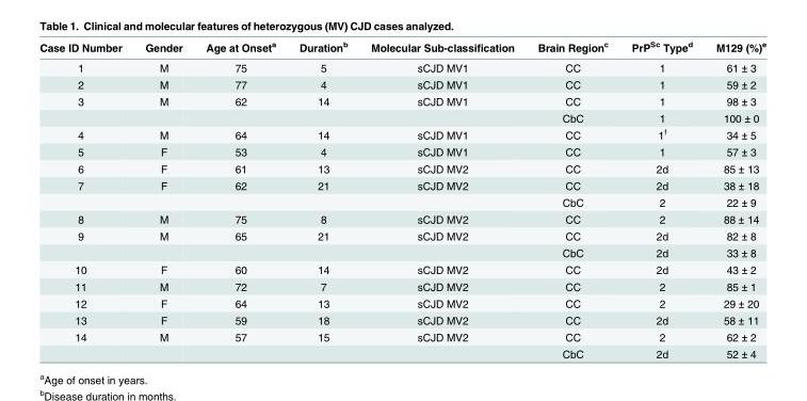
<table><thead><tr><td>Case ID Number</td><td>Gender</td><td>Age at Onset<sup>a</sup></td><td>Duration<sup>b</sup></td><td>Molecular Sub-classification</td><td>Brain Region<sup>c</sup></td><td>PrP<sup>Sc</sup> Type<sup>d</sup></td><td>M129 (%)<sup>e</sup></td></tr></thead><tbody><tr><td>1</td><td>M</td><td>75</td><td>5</td><td>sCJD MV1</td><td>CC</td><td>1</td><td>61 ± 3</td></tr><tr><td>2</td><td>M</td><td>77</td><td>4</td><td>sCJD MV1</td><td>CC</td><td>1</td><td>59 ± 2</td></tr><tr><td rowspan="2">3</td><td>M</td><td>62</td><td>14</td><td>sCJD MV1</td><td>CC</td><td>1</td><td>98 ± 3</td></tr><tr><td></td><td></td><td></td><td></td><td>CbC</td><td>1</td><td>100 ± 0</td></tr><tr><td>4</td><td>M</td><td>64</td><td>14</td><td>sCJD MV1</td><td>CC</td><td>1<sup>f</sup></td><td>34 ± 5</td></tr><tr><td>5</td><td>F</td><td>53</td><td>4</td><td>sCJD MV1</td><td>CC</td><td>1</td><td>57 ± 3</td></tr><tr><td>6</td><td>F</td><td>61</td><td>13</td><td>sCJD MV2</td><td>CC</td><td>2d</td><td>85 ± 13</td></tr><tr><td rowspan="2">7</td><td>F</td><td>62</td><td>21</td><td>sCJD MV2</td><td>CC</td><td>2d</td><td>38 ± 18</td></tr><tr><td></td><td></td><td></td><td></td><td>CbC</td><td>2</td><td>22 ± 9</td></tr><tr><td>8</td><td>M</td><td>75</td><td>8</td><td>sCJD MV2</td><td>CC</td><td>2</td><td>88 ± 14</td></tr><tr><td rowspan="2">9</td><td>M</td><td>65</td><td>21</td><td>sCJD MV2</td><td>CC</td><td>2d</td><td>82 ± 8</td></tr><tr><td></td><td></td><td></td><td></td><td>CbC</td><td>2d</td><td>33 ± 8</td></tr><tr><td>10</td><td>F</td><td>60</td><td>14</td><td>sCJD MV2</td><td>CC</td><td>2d</td><td>43 ± 2</td></tr><tr><td>11</td><td>M</td><td>72</td><td>7</td><td>sCJD MV2</td><td>CC</td><td>2</td><td>85 ± 1</td></tr><tr><td>12</td><td>F</td><td>64</td><td>13</td><td>sCJD MV2</td><td>CC</td><td>2</td><td>29 ± 20</td></tr><tr><td>13</td><td>F</td><td>59</td><td>18</td><td>sCJD MV2</td><td>CC</td><td>2d</td><td>58 ± 11</td></tr><tr><td rowspan="2">14</td><td>M</td><td>57</td><td>15</td><td>sCJD MV2</td><td>CC</td><td>2</td><td>62 ± 2</td></tr><tr><td></td><td></td><td></td><td></td><td>CbC</td><td>2d</td><td>52 ± 4</td></tr></tbody></table>